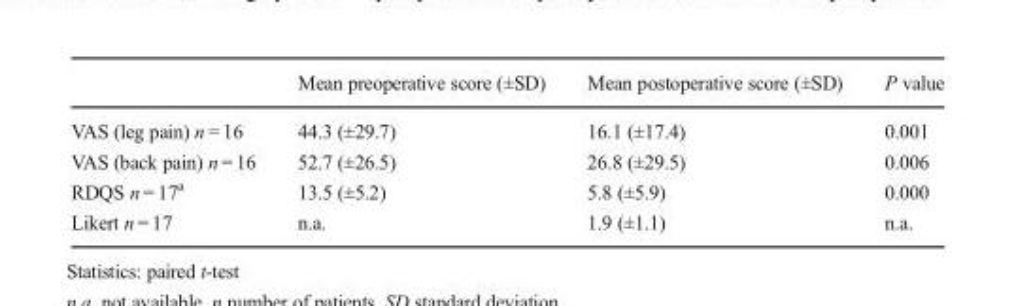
<table><thead><tr><td></td><td>Mean preoperative score (±SD)</td><td>Mean postoperative score (±SD)</td><td>P value</td></tr></thead><tbody><tr><td>VAS (leg pain) n = 16</td><td>44.3 (±29.7)</td><td>16.1 (±17.4)</td><td>0.001</td></tr><tr><td>VAS (back pain) n = 16</td><td>52.7 (±26.5)</td><td>26.8 (±29.5)</td><td>0.006</td></tr><tr><td>RDQS n = 17<sup>a</sup></td><td>13.5 (±5.2)</td><td>5.8 (±5.9)</td><td>0.000</td></tr><tr><td>Likert n = 17</td><td>n.a.</td><td>1.9 (±1.1)</td><td>n.a.</td></tr></tbody></table>